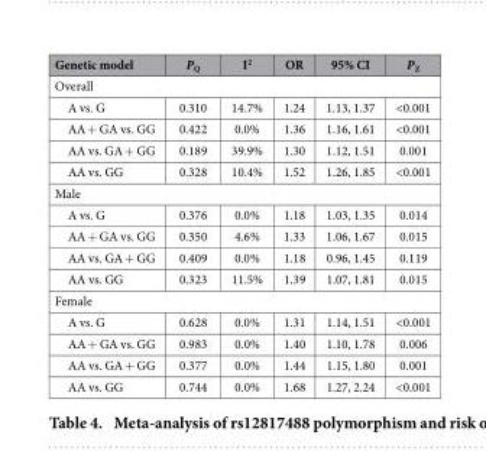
<table><thead><tr><td>Genetic model</td><td>P<sub>Q</sub></td><td>I<sup>2</sup></td><td>OR</td><td>95% CI</td><td>P<sub>Z</sub></td></tr></thead><tbody><tr><td colspan="6">Overall</td></tr><tr><td>A vs. G</td><td>0.310</td><td>14.7%</td><td>1.24</td><td>1.13, 1.37</td><td>&lt;0.001</td></tr><tr><td>AA + GA vs. GG</td><td>0.422</td><td>0.0%</td><td>1.36</td><td>1.16, 1.61</td><td>&lt;0.001</td></tr><tr><td>AA vs. GA + GG</td><td>0.189</td><td>39.9%</td><td>1.30</td><td>1.12, 1.51</td><td>0.001</td></tr><tr><td>AA vs. GG</td><td>0.328</td><td>10.4%</td><td>1.52</td><td>1.26, 1.85</td><td>&lt;0.001</td></tr><tr><td colspan="6">Male</td></tr><tr><td>A vs. G</td><td>0.376</td><td>0.0%</td><td>1.18</td><td>1.03, 1.35</td><td>0.014</td></tr><tr><td>AA + GA vs. GG</td><td>0.350</td><td>4.6%</td><td>1.33</td><td>1.06, 1.67</td><td>0.015</td></tr><tr><td>AA vs. GA + GG</td><td>0.409</td><td>0.0%</td><td>1.18</td><td>0.96, 1.45</td><td>0.119</td></tr><tr><td>AA vs. GG</td><td>0.323</td><td>11.5%</td><td>1.39</td><td>1.07, 1.81</td><td>0.015</td></tr><tr><td colspan="6">Female</td></tr><tr><td>A vs. G</td><td>0.628</td><td>0.0%</td><td>1.31</td><td>1.14, 1.51</td><td>&lt;0.001</td></tr><tr><td>AA + GA vs. GG</td><td>0.983</td><td>0.0%</td><td>1.40</td><td>1.10, 1.78</td><td>0.006</td></tr><tr><td>AA vs. GA + GG</td><td>0.377</td><td>0.0%</td><td>1.44</td><td>1.15, 1.80</td><td>0.001</td></tr><tr><td>AA vs. GG</td><td>0.744</td><td>0.0%</td><td>1.68</td><td>1.27, 2.24</td><td>&lt;0.001</td></tr></tbody></table>